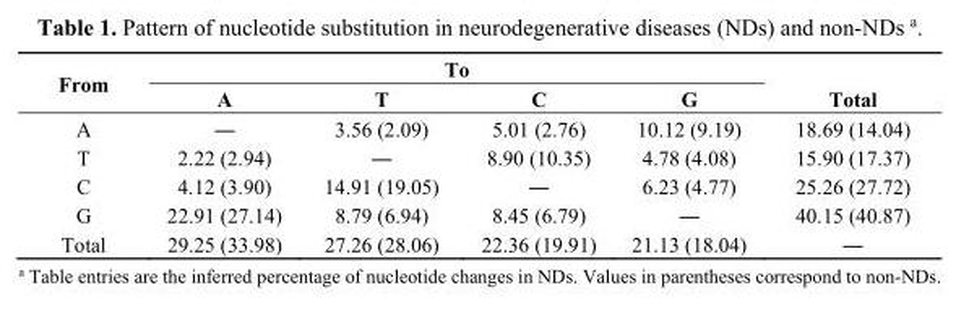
<table><thead><tr><td rowspan="2">From</td><td colspan="4">To</td><td rowspan="2">Total</td></tr><tr><td>A</td><td>T</td><td>C</td><td>G</td></tr></thead><tbody><tr><td>A</td><td>―</td><td>3.56 (2.09)</td><td>5.01 (2.76)</td><td>10.12 (9.19)</td><td>18.69 (14.04)</td></tr><tr><td>T</td><td>2.22 (2.94)</td><td>―</td><td>8.90 (10.35)</td><td>4.78 (4.08)</td><td>15.90 (17.37)</td></tr><tr><td>C</td><td>4.12 (3.90)</td><td>14.91 (19.05)</td><td>―</td><td>6.23 (4.77)</td><td>25.26 (27.72)</td></tr><tr><td>G</td><td>22.91 (27.14)</td><td>8.79 (6.94)</td><td>8.45 (6.79)</td><td>―</td><td>40.15 (40.87)</td></tr><tr><td>Total</td><td>29.25 (33.98)</td><td>27.26 (28.06)</td><td>22.36 (19.91)</td><td>21.13 (18.04)</td><td>―</td></tr></tbody></table>